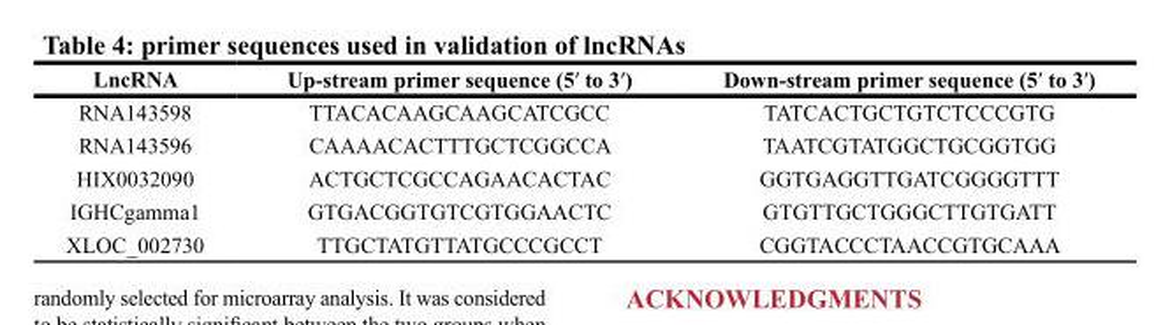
<table><thead><tr><td>LncRNA</td><td>Up-stream primer sequence (5′ to 3′)</td><td>Down-stream primer sequence (5′ to 3′)</td></tr></thead><tbody><tr><td>RNA143598</td><td>TTACACAAGCAAGCATCGCC</td><td>TATCACTGCTGTCTCCCGTG</td></tr><tr><td>RNA143596</td><td>CAAAACACTTTGCTCGGCCA</td><td>TAATCGTATGGCTGCGGTGG</td></tr><tr><td>HIX0032090</td><td>ACTGCTCGCCAGAACACTAC</td><td>GGTGAGGTTGATCGGGGTTT</td></tr><tr><td>IGHCgamma1</td><td>GTGACGGTGTCGTGGAACTC</td><td>GTGTTGCTGGGCTTGTGATT</td></tr><tr><td>XLOC_002730</td><td>TTGCTATGTTATGCCCGCCT</td><td>CGGTACCCTAACCGTGCAAA</td></tr></tbody></table>